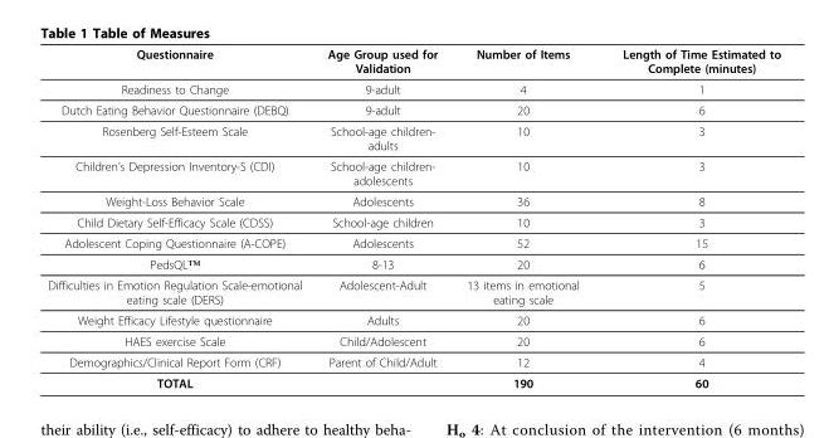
<table><thead><tr><td>Questionnaire</td><td>Age Group used for Validation</td><td>Number of Items</td><td>Length of Time Estimated to Complete (minutes)</td></tr></thead><tbody><tr><td>Readiness to Change</td><td>9-adult</td><td>4</td><td>1</td></tr><tr><td>Dutch Eating Behavior Questionnaire (DEBQ)</td><td>9-adult</td><td>20</td><td>6</td></tr><tr><td>Rosenberg Self-Esteem Scale</td><td>School-age children- adults</td><td>10</td><td>3</td></tr><tr><td>Children’s Depression Inventory-S (CDI)</td><td>School-age children- adolescents</td><td>10</td><td>3</td></tr><tr><td>Weight-Loss Behavior Scale</td><td>Adolescents</td><td>36</td><td>8</td></tr><tr><td>Child Dietary Self-Efficacy Scale (CDSS)</td><td>School-age children</td><td>10</td><td>3</td></tr><tr><td>Adolescent Coping Questionnaire (A-COPE)</td><td>Adolescents</td><td>52</td><td>15</td></tr><tr><td>PedsQL™</td><td>8-13</td><td>20</td><td>6</td></tr><tr><td>Difficulties in Emotion Regulation Scale-emotional eating scale (DERS)</td><td>Adolescent-Adult</td><td>13 items in emotional eating scale</td><td>5</td></tr><tr><td>Weight Efficacy Lifestyle questionnaire</td><td>Adults</td><td>20</td><td>6</td></tr><tr><td>HAES exercise Scale</td><td>Child/Adolescent</td><td>20</td><td>6</td></tr><tr><td>Demographics/Clinical Report Form (CRF)</td><td>Parent of Child/Adult</td><td>12</td><td>4</td></tr><tr><td>TOTAL</td><td></td><td>190</td><td>60</td></tr></tbody></table>